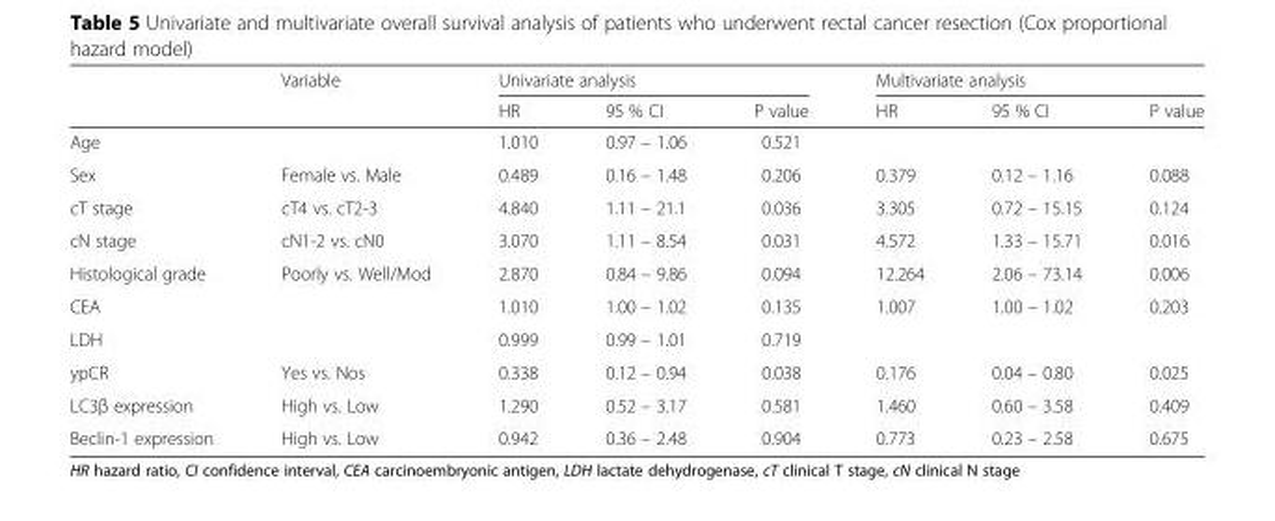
<table><thead><tr><td rowspan="2"></td><td rowspan="2">Variable</td><td colspan="3">Univariate analysis</td><td colspan="3">Multivariate analysis</td></tr><tr><td>HR</td><td>95 % CI</td><td>P value</td><td>HR</td><td>95 % CI</td><td>P value</td></tr></thead><tbody><tr><td>Age</td><td></td><td>1.010</td><td>0.97 – 1.06</td><td>0.521</td><td></td><td></td><td></td></tr><tr><td>Sex</td><td>Female vs. Male</td><td>0.489</td><td>0.16 – 1.48</td><td>0.206</td><td>0.379</td><td>0.12 – 1.16</td><td>0.088</td></tr><tr><td>cT stage</td><td>cT4 vs. cT2-3</td><td>4.840</td><td>1.11 – 21.1</td><td>0.036</td><td>3.305</td><td>0.72 – 15.15</td><td>0.124</td></tr><tr><td>cN stage</td><td>cN1-2 vs. cN0</td><td>3.070</td><td>1.11 – 8.54</td><td>0.031</td><td>4.572</td><td>1.33 – 15.71</td><td>0.016</td></tr><tr><td>Histological grade</td><td>Poorly vs. Well/Mod</td><td>2.870</td><td>0.84 – 9.86</td><td>0.094</td><td>12.264</td><td>2.06 – 73.14</td><td>0.006</td></tr><tr><td>CEA</td><td></td><td>1.010</td><td>1.00 – 1.02</td><td>0.135</td><td>1.007</td><td>1.00 – 1.02</td><td>0.203</td></tr><tr><td>LDH</td><td></td><td>0.999</td><td>0.99 – 1.01</td><td>0.719</td><td></td><td></td><td></td></tr><tr><td>ypCR</td><td>Yes vs. Nos</td><td>0.338</td><td>0.12 – 0.94</td><td>0.038</td><td>0.176</td><td>0.04 – 0.80</td><td>0.025</td></tr><tr><td>LC3β expression</td><td>High vs. Low</td><td>1.290</td><td>0.52 – 3.17</td><td>0.581</td><td>1.460</td><td>0.60 – 3.58</td><td>0.409</td></tr><tr><td>Beclin-1 expression</td><td>High vs. Low</td><td>0.942</td><td>0.36 – 2.48</td><td>0.904</td><td>0.773</td><td>0.23 – 2.58</td><td>0.675</td></tr></tbody></table>